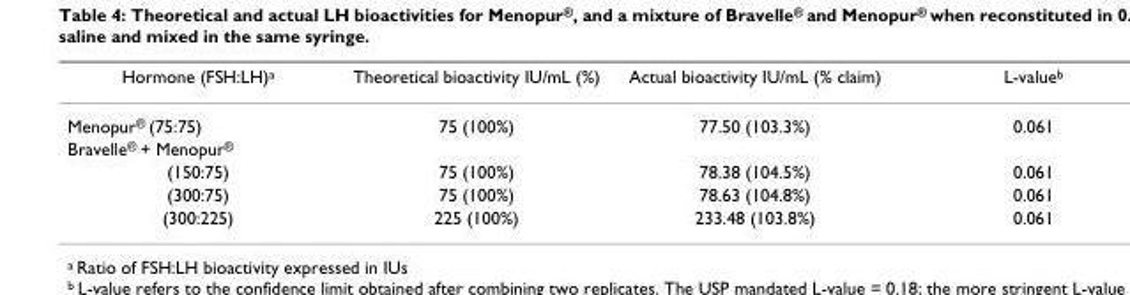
<table><thead><tr><td>Hormone (FSH:LH)<sup>a</sup></td><td>Theoretical bioactivity IU/mL (%)</td><td>Actual bioactivity IU/mL (% claim)</td><td>L-value<sup>b</sup></td></tr></thead><tbody><tr><td>Menopur<sup>®</sup> (75:75)</td><td>75 (100%)</td><td>77.50 (103.3%)</td><td>0.061</td></tr><tr><td colspan="4">Bravelle<sup>®</sup> + Menopur<sup>®</sup></td></tr><tr><td>(150:75)</td><td>75 (100%)</td><td>78.38 (104.5%)</td><td>0.061</td></tr><tr><td>(300:75)</td><td>75 (100%)</td><td>78.63 (104.8%)</td><td>0.061</td></tr><tr><td>(300:225)</td><td>225 (100%)</td><td>233.48 (103.8%)</td><td>0.061</td></tr></tbody></table>